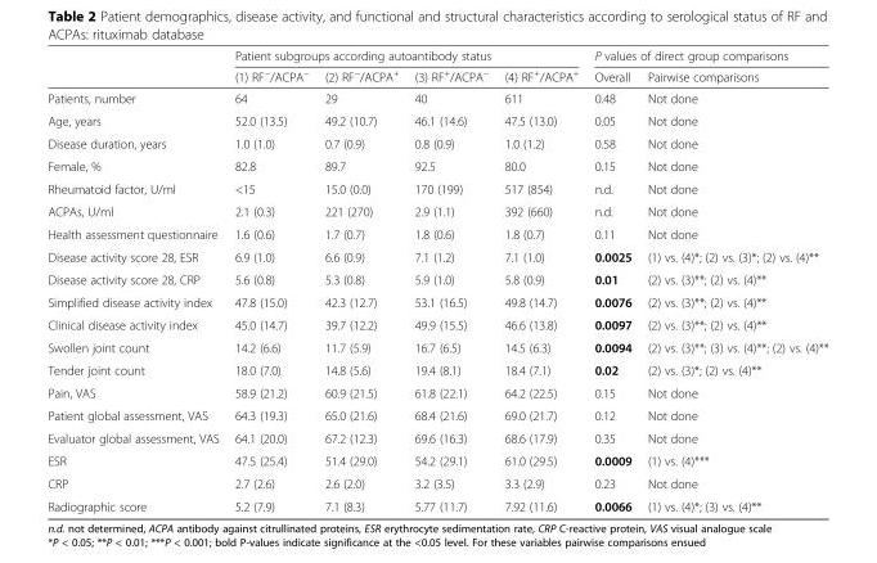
<table><thead><tr><td rowspan="2"></td><td colspan="4">Patient subgroups according autoantibody status</td><td colspan="2">P values of direct group comparisons</td></tr><tr><td>(1) RF<sup>−</sup>/ACPA<sup>−</sup></td><td>(2) RF<sup>−</sup>/ACPA<sup>+</sup></td><td>(3) RF<sup>+</sup>/ACPA<sup>−</sup></td><td>(4) RF<sup>+</sup>/ACPA<sup>+</sup></td><td>Overall</td><td>Pairwise comparisons</td></tr></thead><tbody><tr><td>Patients, number</td><td>64</td><td>29</td><td>40</td><td>611</td><td>0.48</td><td>Not done</td></tr><tr><td>Age, years</td><td>52.0 (13.5)</td><td>49.2 (10.7)</td><td>46.1 (14.6)</td><td>47.5 (13.0)</td><td>0.05</td><td>Not done</td></tr><tr><td>Disease duration, years</td><td>1.0 (1.0)</td><td>0.7 (0.9)</td><td>0.8 (0.9)</td><td>1.0 (1.2)</td><td>0.58</td><td>Not done</td></tr><tr><td>Female, %</td><td>82.8</td><td>89.7</td><td>92.5</td><td>80.0</td><td>0.15</td><td>Not done</td></tr><tr><td>Rheumatoid factor, U/ml</td><td>&lt;15</td><td>15.0 (0.0)</td><td>170 (199)</td><td>517 (854)</td><td>n.d.</td><td>Not done</td></tr><tr><td>ACPAs, U/ml</td><td>2.1 (0.3)</td><td>221 (270)</td><td>2.9 (1.1)</td><td>392 (660)</td><td>n.d.</td><td>Not done</td></tr><tr><td>Health assessment questionnaire</td><td>1.6 (0.6)</td><td>1.7 (0.7)</td><td>1.8 (0.6)</td><td>1.8 (0.7)</td><td>0.11</td><td>Not done</td></tr><tr><td>Disease activity score 28, ESR</td><td>6.9 (1.0)</td><td>6.6 (0.9)</td><td>7.1 (1.2)</td><td>7.1 (1.0)</td><td>0.0025</td><td>(1) vs. (4)*; (2) vs. (3)*; (2) vs. (4)**</td></tr><tr><td>Disease activity score 28, CRP</td><td>5.6 (0.8)</td><td>5.3 (0.8)</td><td>5.9 (1.0)</td><td>5.8 (0.9)</td><td>0.01</td><td>(2) vs. (3)**; (2) vs. (4)**</td></tr><tr><td>Simplified disease activity index</td><td>47.8 (15.0)</td><td>42.3 (12.7)</td><td>53.1 (16.5)</td><td>49.8 (14.7)</td><td>0.0076</td><td>(2) vs. (3)**; (2) vs. (4)**</td></tr><tr><td>Clinical disease activity index</td><td>45.0 (14.7)</td><td>39.7 (12.2)</td><td>49.9 (15.5)</td><td>46.6 (13.8)</td><td>0.0097</td><td>(2) vs. (3)**; (2) vs. (4)**</td></tr><tr><td>Swollen joint count</td><td>14.2 (6.6)</td><td>11.7 (5.9)</td><td>16.7 (6.5)</td><td>14.5 (6.3)</td><td>0.0094</td><td>(2) vs. (3)**; (3) vs. (4)**; (2) vs. (4)**</td></tr><tr><td>Tender joint count</td><td>18.0 (7.0)</td><td>14.8 (5.6)</td><td>19.4 (8.1)</td><td>18.4 (7.1)</td><td>0.02</td><td>(2) vs. (3)*; (2) vs. (4)**</td></tr><tr><td>Pain, VAS</td><td>58.9 (21.2)</td><td>60.9 (21.5)</td><td>61.8 (22.1)</td><td>64.2 (22.5)</td><td>0.15</td><td>Not done</td></tr><tr><td>Patient global assessment, VAS</td><td>64.3 (19.3)</td><td>65.0 (21.6)</td><td>68.4 (21.6)</td><td>69.0 (21.7)</td><td>0.12</td><td>Not done</td></tr><tr><td>Evaluator global assessment, VAS</td><td>64.1 (20.0)</td><td>67.2 (12.3)</td><td>69.6 (16.3)</td><td>68.6 (17.9)</td><td>0.35</td><td>Not done</td></tr><tr><td>ESR</td><td>47.5 (25.4)</td><td>51.4 (29.0)</td><td>54.2 (29.1)</td><td>61.0 (29.5)</td><td>0.0009</td><td>(1) vs. (4)***</td></tr><tr><td>CRP</td><td>2.7 (2.6)</td><td>2.6 (2.0)</td><td>3.2 (3.5)</td><td>3.3 (2.9)</td><td>0.23</td><td>Not done</td></tr><tr><td>Radiographic score</td><td>5.2 (7.9)</td><td>7.1 (8.3)</td><td>5.77 (11.7)</td><td>7.92 (11.6)</td><td>0.0066</td><td>(1) vs. (4)*; (3) vs. (4)**</td></tr></tbody></table>